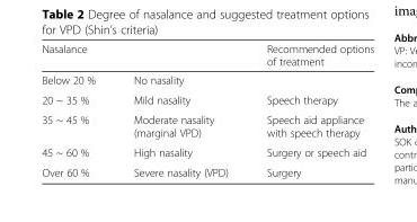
<table><thead><tr><td colspan="2">Nasalance</td><td rowspan="2">Recommended options of treatment</td></tr><tr><td>Below 20 %</td><td>No nasality</td></tr></thead><tbody><tr><td>20 ~ 35 %</td><td>Mild nasality</td><td>Speech therapy</td></tr><tr><td>35 ~ 45 %</td><td>Moderate nasality (marginal VPD)</td><td>Speech aid appliance with speech therapy</td></tr><tr><td>45 ~ 60 %</td><td>High nasality</td><td>Surgery or speech aid</td></tr><tr><td>Over 60 %</td><td>Severe nasality (VPD)</td><td>Surgery</td></tr></tbody></table>